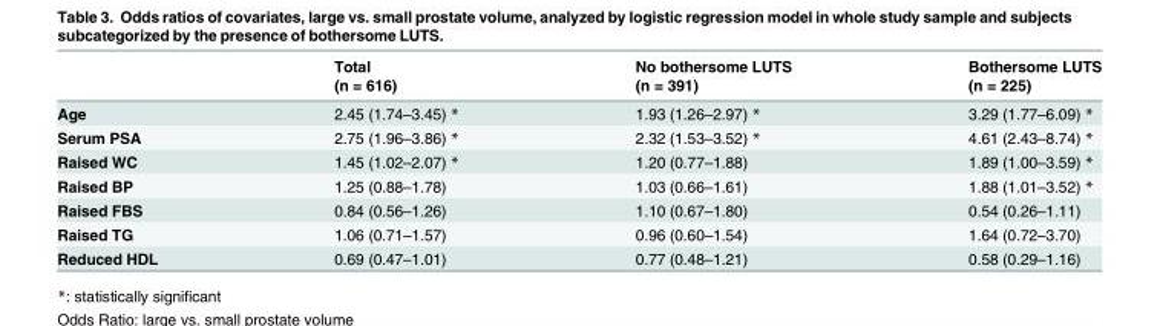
<table><thead><tr><td rowspan="2"></td><td rowspan="2">Total (n = 616)</td><td rowspan="2">No bothersome LUTS (n = 391)</td><td rowspan="2">Bothersome LUTS (n = 225)</td></tr><tr></tr></thead><tbody><tr><td>Age</td><td>2.45 (1.74–3.45) *</td><td>1.93 (1.26–2.97) *</td><td>3.29 (1.77–6.09) *</td></tr><tr><td>Serum PSA</td><td>2.75 (1.96–3.86) *</td><td>2.32 (1.53–3.52) *</td><td>4.61 (2.43–8.74) *</td></tr><tr><td>Raised WC</td><td>1.45 (1.02–2.07) *</td><td>1.20 (0.77–1.88)</td><td>1.89 (1.00–3.59) *</td></tr><tr><td>Raised BP</td><td>1.25 (0.88–1.78)</td><td>1.03 (0.66–1.61)</td><td>1.88 (1.01–3.52) *</td></tr><tr><td>Raised FBS</td><td>0.84 (0.56–1.26)</td><td>1.10 (0.67–1.80)</td><td>0.54 (0.26–1.11)</td></tr><tr><td>Raised TG</td><td>1.06 (0.71–1.57)</td><td>0.96 (0.60–1.54)</td><td>1.64 (0.72–3.70)</td></tr><tr><td>Reduced HDL</td><td>0.69 (0.47–1.01)</td><td>0.77 (0.48–1.21)</td><td>0.58 (0.29–1.16)</td></tr></tbody></table>